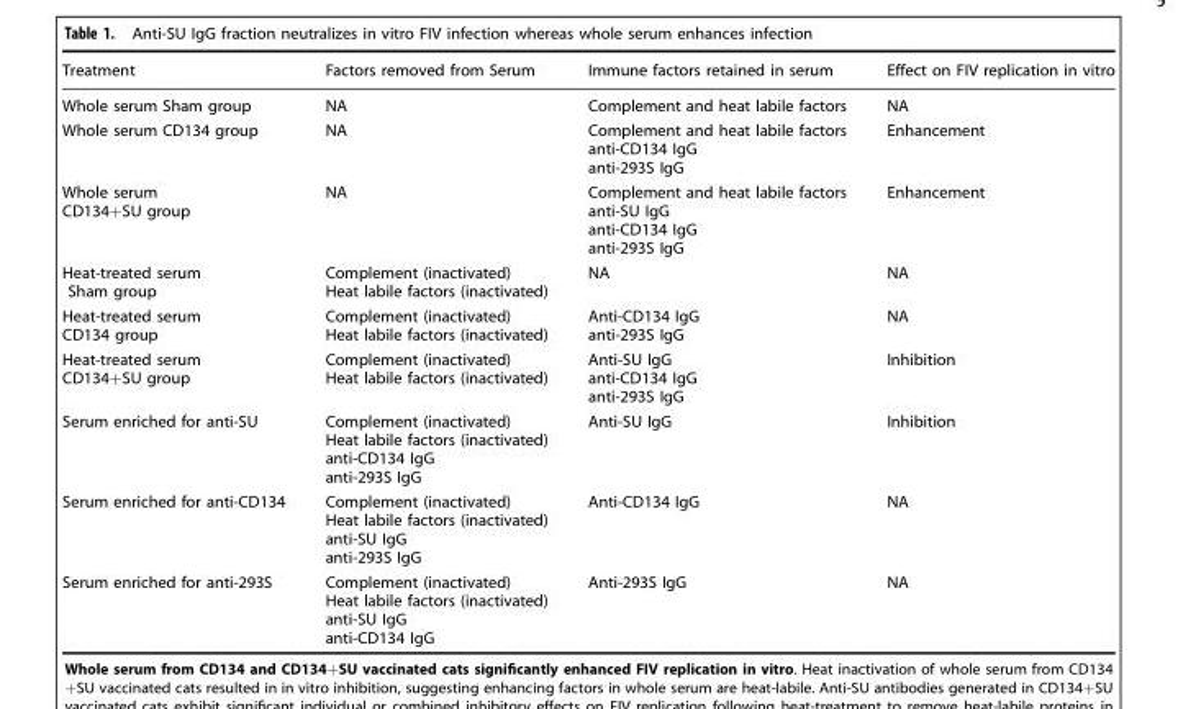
<table><thead><tr><td>Treatment</td><td>Factors removed from Serum</td><td>Immune factors retained in serum</td><td>Effect on FIV replication in vitro</td></tr></thead><tbody><tr><td>Whole serum Sham group</td><td>NA</td><td>Complement and heat labile factors</td><td>NA</td></tr><tr><td>Whole serum CD134 group</td><td>NA</td><td>Complement and heat labile factors anti-CD134 IgG anti-293S IgG</td><td>Enhancement</td></tr><tr><td>Whole serum CD134+SU group</td><td>NA</td><td>Complement and heat labile factors anti-SU IgG anti-CD134 IgG anti-293S IgG</td><td>Enhancement</td></tr><tr><td>Heat-treated serum Sham group</td><td>Complement (inactivated) Heat labile factors (inactivated)</td><td>NA</td><td>NA</td></tr><tr><td>Heat-treated serum CD134 group</td><td>Complement (inactivated) Heat labile factors (inactivated)</td><td>Anti-CD134 IgG anti-293S IgG</td><td>NA</td></tr><tr><td>Heat-treated serum CD134+SU group</td><td>Complement (inactivated) Heat labile factors (inactivated)</td><td>Anti-SU IgG anti-CD134 IgG anti-293S IgG</td><td>Inhibition</td></tr><tr><td>Serum enriched for anti-SU</td><td>Complement (inactivated) Heat labile factors (inactivated) anti-CD134 IgG anti-293S IgG</td><td>Anti-SU IgG</td><td>Inhibition</td></tr><tr><td>Serum enriched for anti-CD134</td><td>Complement (inactivated) Heat labile factors (inactivated) anti-SU IgG anti-293S IgG</td><td>Anti-CD134 IgG</td><td>NA</td></tr><tr><td>Serum enriched for anti-293S</td><td>Complement (inactivated) Heat labile factors (inactivated) anti-SU IgG anti-CD134 IgG</td><td>Anti-293S IgG</td><td>NA</td></tr></tbody></table>